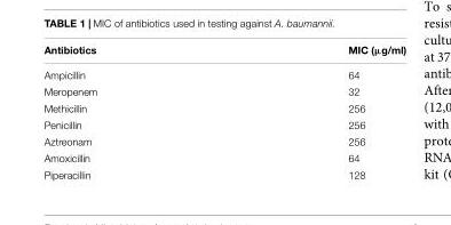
<table><thead><tr><td>Antibiotics</td><td>MIC (µg/ml)</td></tr></thead><tbody><tr><td>Ampicillin</td><td>64</td></tr><tr><td>Meropenem</td><td>32</td></tr><tr><td>Methicillin</td><td>256</td></tr><tr><td>Penicillin</td><td>256</td></tr><tr><td>Aztreonam</td><td>256</td></tr><tr><td>Amoxicillin</td><td>64</td></tr><tr><td>Piperacillin</td><td>128</td></tr></tbody></table>